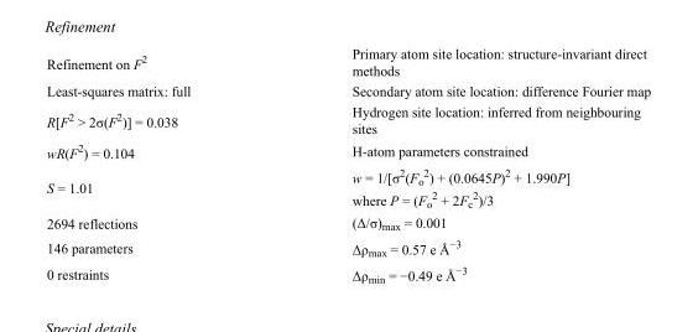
<table><tbody><tr><td>Refinement on F<sup>2</sup></td><td>Primary atom site location: structure-invariant direct methods</td></tr><tr><td>Least-squares matrix: full</td><td>Secondary atom site location: difference Fourier map</td></tr><tr><td>R[F<sup>2</sup> &gt; 2σ(F<sup>2</sup>)] = 0.038</td><td>Hydrogen site location: inferred from neighbouring sites</td></tr><tr><td>wR(F<sup>2</sup>) = 0.104</td><td>H-atom parameters constrained</td></tr><tr><td>S = 1.01</td><td>w = 1/[σ<sup>2</sup>(F<sub>o</sub> <sup>2</sup>) + (0.0645P)<sup>2</sup> + 1.990P] where P = (F<sub>o</sub> <sup>2</sup> + 2F<sub>c</sub> <sup>2</sup>)/3</td></tr><tr><td>2694 reflections</td><td>(Δ/σ)<sub>max</sub> = 0.001</td></tr><tr><td>146 parameters</td><td>Δρ<sub>max</sub> = 0.57 e Å<sup>−3</sup></td></tr><tr><td>0 restraints</td><td>Δρ<sub>min</sub> = −0.49 e Å<sup>−3</sup></td></tr></tbody></table>